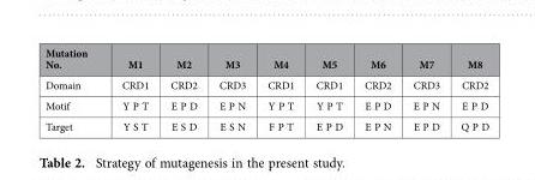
<table><thead><tr><td>Mutation No.</td><td>M1</td><td>M2</td><td>M3</td><td>M4</td><td>M5</td><td>M6</td><td>M7</td><td>M8</td></tr></thead><tbody><tr><td>Domain</td><td>CRD1</td><td>CRD2</td><td>CRD3</td><td>CRD1</td><td>CRD1</td><td>CRD2</td><td>CRD3</td><td>CRD2</td></tr><tr><td>Motif</td><td>Y P T</td><td>E P D</td><td>E P N</td><td>Y P T</td><td>Y P T</td><td>E P D</td><td>E P N</td><td>E P D</td></tr><tr><td>Target</td><td>Y S T</td><td>E S D</td><td>E S N</td><td>F P T</td><td>E P D</td><td>E P N</td><td>E P D</td><td>Q P D</td></tr></tbody></table>